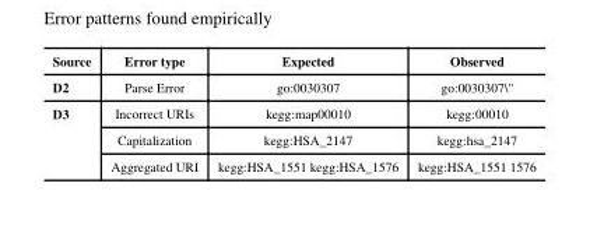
<table><thead><tr><td>Source</td><td>Error type</td><td>Expected</td><td>Observed</td></tr></thead><tbody><tr><td>D2</td><td>Parse Error</td><td>go:0030307</td><td>go:0030307\&quot;</td></tr><tr><td rowspan="3">D3</td><td>Incorrect URIs</td><td>kegg:map00010</td><td>kegg:00010</td></tr><tr><td>Capitalization</td><td>kegg:HSA_2147</td><td>kegg:hsa_2147</td></tr><tr><td>Aggregated URI</td><td>kegg:HSA_1551 kegg:HSA_1576</td><td>kegg:HSA_1551 1576</td></tr></tbody></table>